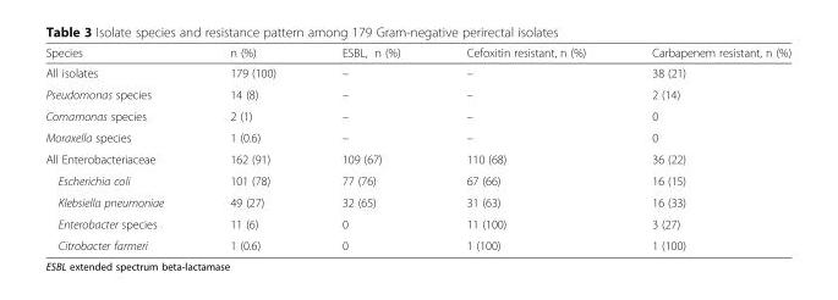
<table><thead><tr><td>Species</td><td>n (%)</td><td>ESBL, n (%)</td><td>Cefoxitin resistant, n (%)</td><td>Carbapenem resistant, n (%)</td></tr></thead><tbody><tr><td>All isolates</td><td>179 (100)</td><td>–</td><td>–</td><td>38 (21)</td></tr><tr><td>Pseudomonas species</td><td>14 (8)</td><td>–</td><td>–</td><td>2 (14)</td></tr><tr><td>Comamonas species</td><td>2 (1)</td><td>–</td><td>–</td><td>0</td></tr><tr><td>Moraxella species</td><td>1 (0.6)</td><td>–</td><td>–</td><td>0</td></tr><tr><td>All Enterobacteriaceae</td><td>162 (91)</td><td>109 (67)</td><td>110 (68)</td><td>36 (22)</td></tr><tr><td>Escherichia coli</td><td>101 (78)</td><td>77 (76)</td><td>67 (66)</td><td>16 (15)</td></tr><tr><td>Klebsiella pneumoniae</td><td>49 (27)</td><td>32 (65)</td><td>31 (63)</td><td>16 (33)</td></tr><tr><td>Enterobacter species</td><td>11 (6)</td><td>0</td><td>11 (100)</td><td>3 (27)</td></tr><tr><td>Citrobacter farmeri</td><td>1 (0.6)</td><td>0</td><td>1 (100)</td><td>1 (100)</td></tr></tbody></table>